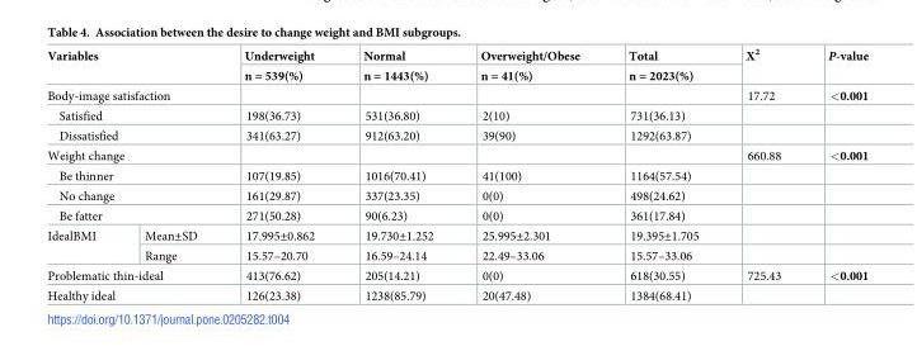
<table><thead><tr><td rowspan="2" colspan="2">Variables</td><td rowspan="2">Underweight n = 539(%)</td><td rowspan="2">Normal n = 1443(%)</td><td rowspan="2">Overweight/Obese n = 41(%)</td><td rowspan="2">Total n = 2023(%)</td><td rowspan="2">X<sup>2</sup></td><td rowspan="2">P-value</td></tr><tr></tr></thead><tbody><tr><td colspan="2">Body-image satisfaction</td><td></td><td></td><td></td><td></td><td>17.72</td><td>&lt;0.001</td></tr><tr><td colspan="2">Satisfied</td><td>198(36.73)</td><td>531(36.80)</td><td>2(10)</td><td>731(36.13)</td><td></td><td></td></tr><tr><td colspan="2">Dissatisfied</td><td>341(63.27)</td><td>912(63.20)</td><td>39(90)</td><td>1292(63.87)</td><td></td><td></td></tr><tr><td colspan="2">Weight change</td><td></td><td></td><td></td><td></td><td>660.88</td><td>&lt;0.001</td></tr><tr><td colspan="2">Be thinner</td><td>107(19.85)</td><td>1016(70.41)</td><td>41(100)</td><td>1164(57.54)</td><td></td><td></td></tr><tr><td colspan="2">No change</td><td>161(29.87)</td><td>337(23.35)</td><td>0(0)</td><td>498(24.62)</td><td></td><td></td></tr><tr><td colspan="2">Be fatter</td><td>271(50.28)</td><td>90(6.23)</td><td>0(0)</td><td>361(17.84)</td><td></td><td></td></tr><tr><td rowspan="2">IdealBMI</td><td>Mean±SD</td><td>17.995±0.862</td><td>19.730±1.252</td><td>25.995±2.301</td><td>19.395±1.705</td><td></td><td></td></tr><tr><td>Range</td><td>15.57–20.70</td><td>16.59–24.14</td><td>22.49–33.06</td><td>15.57–33.06</td><td></td><td></td></tr><tr><td colspan="2">Problematic thin-ideal</td><td>413(76.62)</td><td>205(14.21)</td><td>0(0)</td><td>618(30.55)</td><td>725.43</td><td>&lt;0.001</td></tr><tr><td colspan="2">Healthy ideal</td><td>126(23.38)</td><td>1238(85.79)</td><td>20(47.48)</td><td>1384(68.41)</td><td></td><td></td></tr></tbody></table>